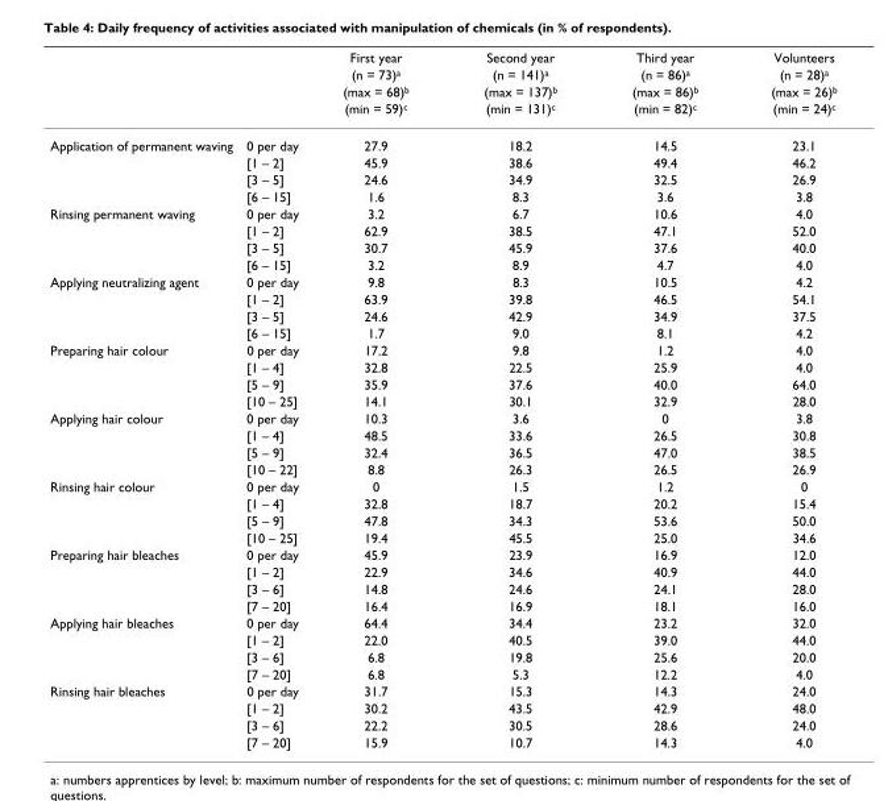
<table><thead><tr><td rowspan="4"></td><td rowspan="4"></td><td rowspan="4">First year (n = 73)<sup>a</sup> (max = 68)<sup>b</sup> (min = 59)<sup>c</sup></td><td rowspan="4">Second year (n = 141)<sup>a</sup> (max = 137)<sup>b</sup> (min = 131)<sup>c</sup></td><td rowspan="4">Third year (n = 86)<sup>a</sup> (max = 86)<sup>b</sup> (min = 82)<sup>c</sup></td><td rowspan="4">Volunteers (n = 28)<sup>a</sup> (max = 26)<sup>b</sup> (min = 24)<sup>c</sup></td></tr><tr></tr><tr></tr><tr></tr></thead><tbody><tr><td rowspan="4">Application of permanent waving</td><td>0 per day</td><td>27.9</td><td>18.2</td><td>14.5</td><td>23.1</td></tr><tr><td>[1 – 2]</td><td>45.9</td><td>38.6</td><td>49.4</td><td>46.2</td></tr><tr><td>[3 – 5]</td><td>24.6</td><td>34.9</td><td>32.5</td><td>26.9</td></tr><tr><td>[6 – 15]</td><td>1.6</td><td>8.3</td><td>3.6</td><td>3.8</td></tr><tr><td rowspan="4">Rinsing permanent waving</td><td>0 per day</td><td>3.2</td><td>6.7</td><td>10.6</td><td>4.0</td></tr><tr><td>[1 – 2]</td><td>62.9</td><td>38.5</td><td>47.1</td><td>52.0</td></tr><tr><td>[3 – 5]</td><td>30.7</td><td>45.9</td><td>37.6</td><td>40.0</td></tr><tr><td>[6 – 15]</td><td>3.2</td><td>8.9</td><td>4.7</td><td>4.0</td></tr><tr><td rowspan="4">Applying neutralizing agent</td><td>0 per day</td><td>9.8</td><td>8.3</td><td>10.5</td><td>4.2</td></tr><tr><td>[1 – 2]</td><td>63.9</td><td>39.8</td><td>46.5</td><td>54.1</td></tr><tr><td>[3 – 5]</td><td>24.6</td><td>42.9</td><td>34.9</td><td>37.5</td></tr><tr><td>[6 – 15]</td><td>1.7</td><td>9.0</td><td>8.1</td><td>4.2</td></tr><tr><td rowspan="4">Preparing hair colour</td><td>0 per day</td><td>17.2</td><td>9.8</td><td>1.2</td><td>4.0</td></tr><tr><td>[1 – 4]</td><td>32.8</td><td>22.5</td><td>25.9</td><td>4.0</td></tr><tr><td>[5 – 9]</td><td>35.9</td><td>37.6</td><td>40.0</td><td>64.0</td></tr><tr><td>[10 – 25]</td><td>14.1</td><td>30.1</td><td>32.9</td><td>28.0</td></tr><tr><td rowspan="4">Applying hair colour</td><td>0 per day</td><td>10.3</td><td>3.6</td><td>0</td><td>3.8</td></tr><tr><td>[1 – 4]</td><td>48.5</td><td>33.6</td><td>26.5</td><td>30.8</td></tr><tr><td>[5 – 9]</td><td>32.4</td><td>36.5</td><td>47.0</td><td>38.5</td></tr><tr><td>[10 – 22]</td><td>8.8</td><td>26.3</td><td>26.5</td><td>26.9</td></tr><tr><td rowspan="4">Rinsing hair colour</td><td>0 per day</td><td>0</td><td>1.5</td><td>1.2</td><td>0</td></tr><tr><td>[1 – 4]</td><td>32.8</td><td>18.7</td><td>20.2</td><td>15.4</td></tr><tr><td>[5 – 9]</td><td>47.8</td><td>34.3</td><td>53.6</td><td>50.0</td></tr><tr><td>[10 – 25]</td><td>19.4</td><td>45.5</td><td>25.0</td><td>34.6</td></tr><tr><td rowspan="4">Preparing hair bleaches</td><td>0 per day</td><td>45.9</td><td>23.9</td><td>16.9</td><td>12.0</td></tr><tr><td>[1 – 2]</td><td>22.9</td><td>34.6</td><td>40.9</td><td>44.0</td></tr><tr><td>[3 – 6]</td><td>14.8</td><td>24.6</td><td>24.1</td><td>28.0</td></tr><tr><td>[7 – 20]</td><td>16.4</td><td>16.9</td><td>18.1</td><td>16.0</td></tr><tr><td rowspan="4">Applying hair bleaches</td><td>0 per day</td><td>64.4</td><td>34.4</td><td>23.2</td><td>32.0</td></tr><tr><td>[1 – 2]</td><td>22.0</td><td>40.5</td><td>39.0</td><td>44.0</td></tr><tr><td>[3 – 6]</td><td>6.8</td><td>19.8</td><td>25.6</td><td>20.0</td></tr><tr><td>[7 – 20]</td><td>6.8</td><td>5.3</td><td>12.2</td><td>4.0</td></tr><tr><td rowspan="4">Rinsing hair bleaches</td><td>0 per day</td><td>31.7</td><td>15.3</td><td>14.3</td><td>24.0</td></tr><tr><td>[1 – 2]</td><td>30.2</td><td>43.5</td><td>42.9</td><td>48.0</td></tr><tr><td>[3 – 6]</td><td>22.2</td><td>30.5</td><td>28.6</td><td>24.0</td></tr><tr><td>[7 – 20]</td><td>15.9</td><td>10.7</td><td>14.3</td><td>4.0</td></tr></tbody></table>